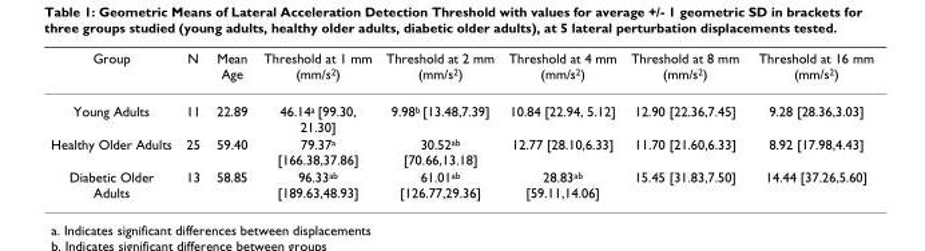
<table><thead><tr><td>Group</td><td>N</td><td>Mean Age</td><td>Threshold at 1 mm (mm/s<sup>2</sup>)</td><td>Threshold at 2 mm (mm/s<sup>2</sup>)</td><td>Threshold at 4 mm (mm/s<sup>2</sup>)</td><td>Threshold at 8 mm (mm/s<sup>2</sup>)</td><td>Threshold at 16 mm (mm/s<sup>2</sup>)</td></tr></thead><tbody><tr><td>Young Adults</td><td>11</td><td>22.89</td><td>46.14<sup>a</sup> [99.30, 21.30]</td><td>9.98<sup>b</sup> [13.48,7.39]</td><td>10.84 [22.94, 5.12]</td><td>12.90 [22.36,7.45]</td><td>9.28 [28.36,3.03]</td></tr><tr><td>Healthy Older Adults</td><td>25</td><td>59.40</td><td>79.37<sup>a</sup> [166.38,37.86]</td><td>30.52<sup>ab</sup> [70.66,13.18]</td><td>12.77 [28.10,6.33]</td><td>11.70 [21.60,6.33]</td><td>8.92 [17.98,4.43]</td></tr><tr><td>Diabetic Older Adults</td><td>13</td><td>58.85</td><td>96.33<sup>ab</sup> [189.63,48.93]</td><td>61.01<sup>ab</sup> [126.77,29.36]</td><td>28.83<sup>ab</sup> [59.11,14.06]</td><td>15.45 [31.83,7.50]</td><td>14.44 [37.26,5.60]</td></tr></tbody></table>